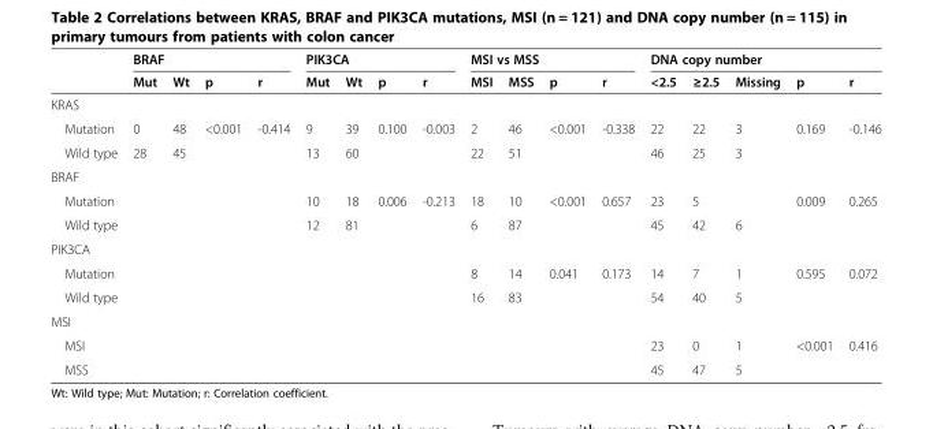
<table><thead><tr><td rowspan="2"></td><td colspan="4">BRAF</td><td colspan="4">PIK3CA</td><td colspan="4">MSI vs MSS</td><td colspan="5">DNA copy number</td></tr><tr><td>Mut</td><td>Wt</td><td>p</td><td>r</td><td>Mut</td><td>Wt</td><td>p</td><td>r</td><td>MSI</td><td>MSS</td><td>p</td><td>r</td><td>&lt;2.5</td><td>≥2.5</td><td>Missing</td><td>p</td><td>r</td></tr></thead><tbody><tr><td colspan="18">KRAS</td></tr><tr><td>Mutation</td><td>0</td><td>48</td><td rowspan="2">&lt;0.001</td><td rowspan="2">-0.414</td><td>9</td><td>39</td><td rowspan="2">0.100</td><td rowspan="2">-0.003</td><td>2</td><td>46</td><td rowspan="2">&lt;0.001</td><td rowspan="2">-0.338</td><td>22</td><td>22</td><td>3</td><td rowspan="2">0.169</td><td rowspan="2">-0.146</td></tr><tr><td>Wild type</td><td>28</td><td>45</td><td>13</td><td>60</td><td>22</td><td>51</td><td>46</td><td>25</td><td>3</td></tr><tr><td colspan="18">BRAF</td></tr><tr><td>Mutation</td><td></td><td></td><td></td><td></td><td>10</td><td>18</td><td rowspan="2">0.006</td><td rowspan="2">-0.213</td><td>18</td><td>10</td><td rowspan="2">&lt;0.001</td><td rowspan="2">0.657</td><td>23</td><td>5</td><td></td><td rowspan="2">0.009</td><td rowspan="2">0.265</td></tr><tr><td>Wild type</td><td></td><td></td><td></td><td></td><td>12</td><td>81</td><td>6</td><td>87</td><td>45</td><td>42</td><td>6</td></tr><tr><td colspan="18">PIK3CA</td></tr><tr><td>Mutation</td><td></td><td></td><td></td><td></td><td></td><td></td><td></td><td></td><td>8</td><td>14</td><td rowspan="2">0.041</td><td rowspan="2">0.173</td><td>14</td><td>7</td><td>1</td><td rowspan="2">0.595</td><td rowspan="2">0.072</td></tr><tr><td>Wild type</td><td></td><td></td><td></td><td></td><td></td><td></td><td></td><td></td><td>16</td><td>83</td><td>54</td><td>40</td><td>5</td></tr><tr><td colspan="18">MSI</td></tr><tr><td>MSI</td><td></td><td></td><td></td><td></td><td></td><td></td><td></td><td></td><td></td><td></td><td></td><td></td><td>23</td><td>0</td><td>1</td><td rowspan="2">&lt;0.001</td><td rowspan="2">0.416</td></tr><tr><td>MSS</td><td></td><td></td><td></td><td></td><td></td><td></td><td></td><td></td><td></td><td></td><td></td><td></td><td>45</td><td>47</td><td>5</td></tr></tbody></table>